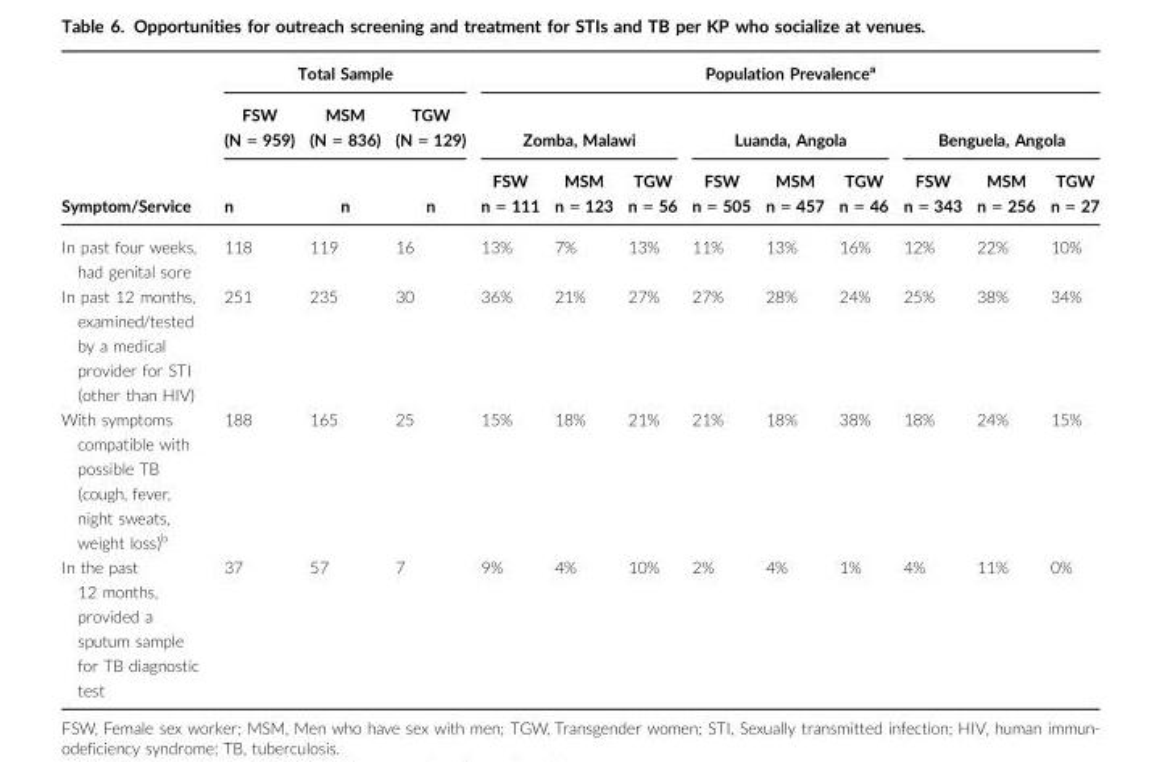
<table><thead><tr><td rowspan="3">Symptom/Service</td><td colspan="3">Total Sample</td><td colspan="9">Population Prevalence<sup>a</sup></td></tr><tr><td rowspan="2">FSW (N = 959) n</td><td rowspan="2">MSM (N = 836) n</td><td rowspan="2">TGW (N = 129) n</td><td colspan="3">Zomba, Malawi</td><td colspan="3">Luanda, Angola</td><td colspan="3">Benguela, Angola</td></tr><tr><td>FSW n = 111</td><td>MSM n = 123</td><td>TGW n = 56</td><td>FSW n = 505</td><td>MSM n = 457</td><td>TGW n = 46</td><td>FSW n = 343</td><td>MSM n = 256</td><td>TGW n = 27</td></tr></thead><tbody><tr><td>In past four weeks, had genital sore</td><td>118</td><td>119</td><td>16</td><td>13%</td><td>7%</td><td>13%</td><td>11%</td><td>13%</td><td>16%</td><td>12%</td><td>22%</td><td>10%</td></tr><tr><td>In past 12 months, examined/tested by a medical provider for STI (other than HIV)</td><td>251</td><td>235</td><td>30</td><td>36%</td><td>21%</td><td>27%</td><td>27%</td><td>28%</td><td>24%</td><td>25%</td><td>38%</td><td>34%</td></tr><tr><td>With symptoms compatible with possible TB (cough, fever, night sweats, weight loss)<sup>b</sup></td><td>188</td><td>165</td><td>25</td><td>15%</td><td>18%</td><td>21%</td><td>21%</td><td>18%</td><td>38%</td><td>18%</td><td>24%</td><td>15%</td></tr><tr><td>In the past 12 months, provided a sputum sample for TB diagnostic test</td><td>37</td><td>57</td><td>7</td><td>9%</td><td>4%</td><td>10%</td><td>2%</td><td>4%</td><td>1%</td><td>4%</td><td>11%</td><td>0%</td></tr></tbody></table>